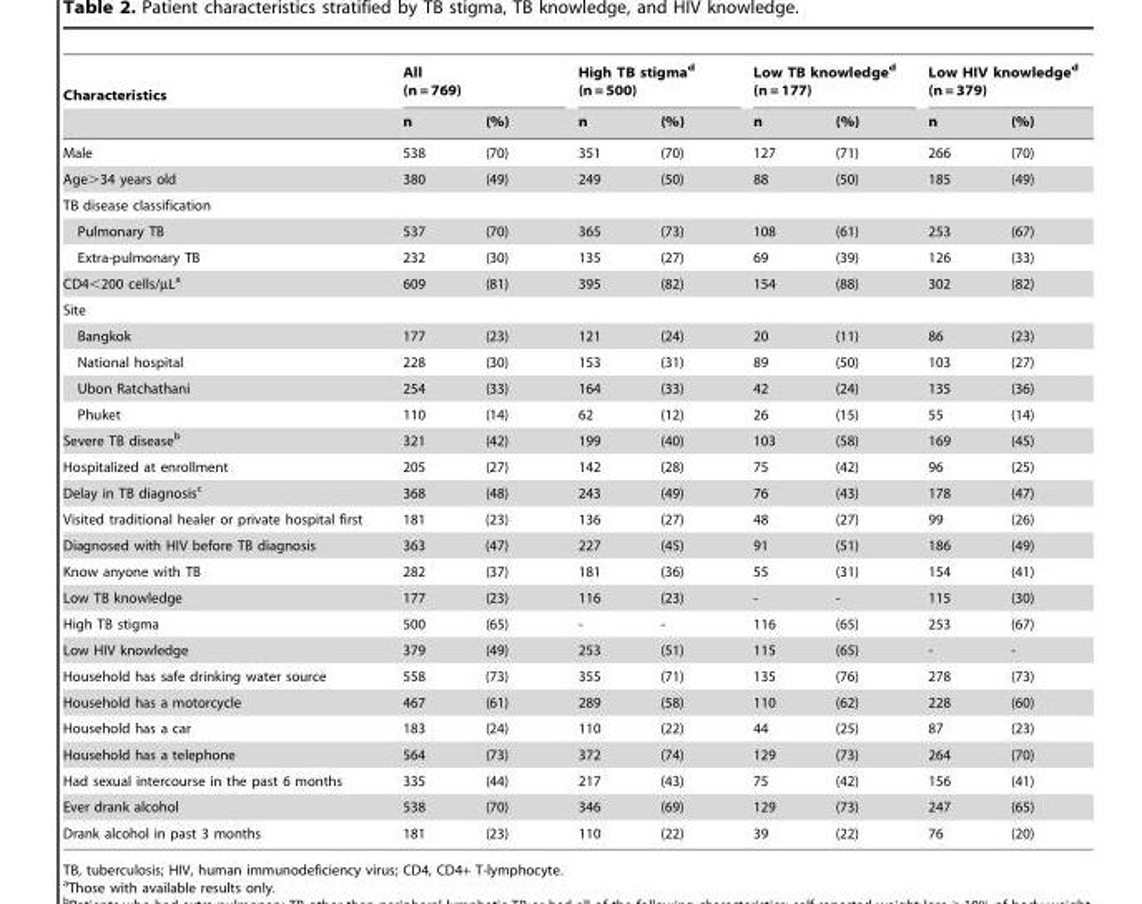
<table><thead><tr><td rowspan="2">Characteristics</td><td colspan="2">All (n = 769)</td><td colspan="2">High TB stigma<sup>d</sup> (n = 500)</td><td colspan="2">Low TB knowledge<sup>d</sup> (n = 177)</td><td colspan="2">Low HIV knowledge<sup>d</sup> (n = 379)</td></tr><tr><td>n</td><td>(%)</td><td>n</td><td>(%)</td><td>n</td><td>(%)</td><td>n</td><td>(%)</td></tr></thead><tbody><tr><td>Male</td><td>538</td><td>(70)</td><td>351</td><td>(70)</td><td>127</td><td>(71)</td><td>266</td><td>(70)</td></tr><tr><td>Age&gt;34 years old</td><td>380</td><td>(49)</td><td>249</td><td>(50)</td><td>88</td><td>(50)</td><td>185</td><td>(49)</td></tr><tr><td colspan="9">TB disease classification</td></tr><tr><td>Pulmonary TB</td><td>537</td><td>(70)</td><td>365</td><td>(73)</td><td>108</td><td>(61)</td><td>253</td><td>(67)</td></tr><tr><td>Extra-pulmonary TB</td><td>232</td><td>(30)</td><td>135</td><td>(27)</td><td>69</td><td>(39)</td><td>126</td><td>(33)</td></tr><tr><td>CD4&lt;200 cells/µL<sup>a</sup></td><td>609</td><td>(81)</td><td>395</td><td>(82)</td><td>154</td><td>(88)</td><td>302</td><td>(82)</td></tr><tr><td colspan="9">Site</td></tr><tr><td>Bangkok</td><td>177</td><td>(23)</td><td>121</td><td>(24)</td><td>20</td><td>(11)</td><td>86</td><td>(23)</td></tr><tr><td>National hospital</td><td>228</td><td>(30)</td><td>153</td><td>(31)</td><td>89</td><td>(50)</td><td>103</td><td>(27)</td></tr><tr><td>Ubon Ratchathani</td><td>254</td><td>(33)</td><td>164</td><td>(33)</td><td>42</td><td>(24)</td><td>135</td><td>(36)</td></tr><tr><td>Phuket</td><td>110</td><td>(14)</td><td>62</td><td>(12)</td><td>26</td><td>(15)</td><td>55</td><td>(14)</td></tr><tr><td>Severe TB disease<sup>b</sup></td><td>321</td><td>(42)</td><td>199</td><td>(40)</td><td>103</td><td>(58)</td><td>169</td><td>(45)</td></tr><tr><td>Hospitalized at enrollment</td><td>205</td><td>(27)</td><td>142</td><td>(28)</td><td>75</td><td>(42)</td><td>96</td><td>(25)</td></tr><tr><td>Delay in TB diagnosis<sup>c</sup></td><td>368</td><td>(48)</td><td>243</td><td>(49)</td><td>76</td><td>(43)</td><td>178</td><td>(47)</td></tr><tr><td>Visited traditional healer or private hospital first</td><td>181</td><td>(23)</td><td>136</td><td>(27)</td><td>48</td><td>(27)</td><td>99</td><td>(26)</td></tr><tr><td>Diagnosed with HIV before TB diagnosis</td><td>363</td><td>(47)</td><td>227</td><td>(45)</td><td>91</td><td>(51)</td><td>186</td><td>(49)</td></tr><tr><td>Know anyone with TB</td><td>282</td><td>(37)</td><td>181</td><td>(36)</td><td>55</td><td>(31)</td><td>154</td><td>(41)</td></tr><tr><td>Low TB knowledge</td><td>177</td><td>(23)</td><td>116</td><td>(23)</td><td>-</td><td>-</td><td>115</td><td>(30)</td></tr><tr><td>High TB stigma</td><td>500</td><td>(65)</td><td>-</td><td>-</td><td>116</td><td>(65)</td><td>253</td><td>(67)</td></tr><tr><td>Low HIV knowledge</td><td>379</td><td>(49)</td><td>253</td><td>(51)</td><td>115</td><td>(65)</td><td>-</td><td>-</td></tr><tr><td>Household has safe drinking water source</td><td>558</td><td>(73)</td><td>355</td><td>(71)</td><td>135</td><td>(76)</td><td>278</td><td>(73)</td></tr><tr><td>Household has a motorcycle</td><td>467</td><td>(61)</td><td>289</td><td>(58)</td><td>110</td><td>(62)</td><td>228</td><td>(60)</td></tr><tr><td>Household has a car</td><td>183</td><td>(24)</td><td>110</td><td>(22)</td><td>44</td><td>(25)</td><td>87</td><td>(23)</td></tr><tr><td>Household has a telephone</td><td>564</td><td>(73)</td><td>372</td><td>(74)</td><td>129</td><td>(73)</td><td>264</td><td>(70)</td></tr><tr><td>Had sexual intercourse in the past 6 months</td><td>335</td><td>(44)</td><td>217</td><td>(43)</td><td>75</td><td>(42)</td><td>156</td><td>(41)</td></tr><tr><td>Ever drank alcohol</td><td>538</td><td>(70)</td><td>346</td><td>(69)</td><td>129</td><td>(73)</td><td>247</td><td>(65)</td></tr><tr><td>Drank alcohol in past 3 months</td><td>181</td><td>(23)</td><td>110</td><td>(22)</td><td>39</td><td>(22)</td><td>76</td><td>(20)</td></tr></tbody></table>